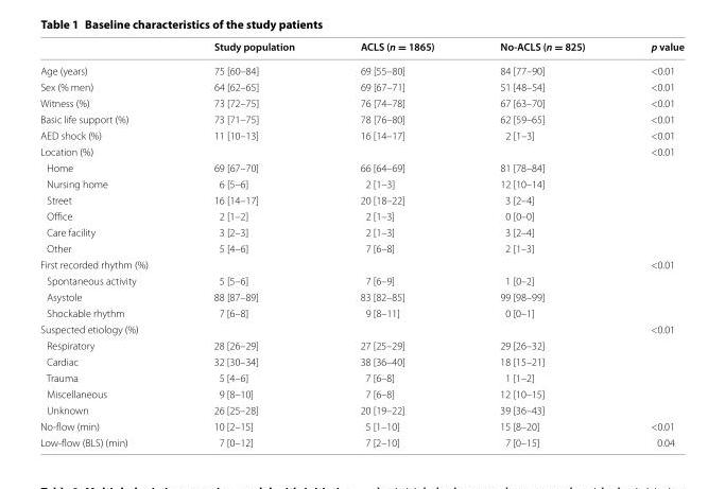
<table><thead><tr><td></td><td>Study population</td><td>ACLS (n = 1865)</td><td>No-ACLS (n = 825)</td><td>p value</td></tr></thead><tbody><tr><td>Age (years)</td><td>75 [60–84]</td><td>69 [55–80]</td><td>84 [77–90]</td><td>&lt;0.01</td></tr><tr><td>Sex (% men)</td><td>64 [62–65]</td><td>69 [67–71]</td><td>51 [48–54]</td><td>&lt;0.01</td></tr><tr><td>Witness (%)</td><td>73 [72–75]</td><td>76 [74–78]</td><td>67 [63–70]</td><td>&lt;0.01</td></tr><tr><td>Basic life support (%)</td><td>73 [71–75]</td><td>78 [76–80]</td><td>62 [59–65]</td><td>&lt;0.01</td></tr><tr><td>AED shock (%)</td><td>11 [10–13]</td><td>16 [14–17]</td><td>2 [1–3]</td><td>&lt;0.01</td></tr><tr><td>Location (%)</td><td></td><td></td><td></td><td>&lt;0.01</td></tr><tr><td>Home</td><td>69 [67–70]</td><td>66 [64–69]</td><td>81 [78–84]</td><td></td></tr><tr><td>Nursing home</td><td>6 [5–6]</td><td>2 [1–3]</td><td>12 [10–14]</td><td></td></tr><tr><td>Street</td><td>16 [14–17]</td><td>20 [18–22]</td><td>3 [2–4]</td><td></td></tr><tr><td>Office</td><td>2 [1–2]</td><td>2 [1–3]</td><td>0 [0–0]</td><td></td></tr><tr><td>Care facility</td><td>3 [2–3]</td><td>2 [1–3]</td><td>3 [2–4]</td><td></td></tr><tr><td>Other</td><td>5 [4–6]</td><td>7 [6–8]</td><td>2 [1–3]</td><td></td></tr><tr><td>First recorded rhythm (%)</td><td></td><td></td><td></td><td>&lt;0.01</td></tr><tr><td>Spontaneous activity</td><td>5 [5–6]</td><td>7 [6–9]</td><td>1 [0–2]</td><td></td></tr><tr><td>Asystole</td><td>88 [87–89]</td><td>83 [82–85]</td><td>99 [98–99]</td><td></td></tr><tr><td>Shockable rhythm</td><td>7 [6–8]</td><td>9 [8–11]</td><td>0 [0–1]</td><td></td></tr><tr><td>Suspected etiology (%)</td><td></td><td></td><td></td><td>&lt;0.01</td></tr><tr><td>Respiratory</td><td>28 [26–29]</td><td>27 [25–29]</td><td>29 [26–32]</td><td></td></tr><tr><td>Cardiac</td><td>32 [30–34]</td><td>38 [36–40]</td><td>18 [15–21]</td><td></td></tr><tr><td>Trauma</td><td>5 [4–6]</td><td>7 [6–8]</td><td>1 [1–2]</td><td></td></tr><tr><td>Miscellaneous</td><td>9 [8–10]</td><td>7 [6–8]</td><td>12 [10–15]</td><td></td></tr><tr><td>Unknown</td><td>26 [25–28]</td><td>20 [19–22]</td><td>39 [36–43]</td><td></td></tr><tr><td>No‑flow (min)</td><td>10 [2–15]</td><td>5 [1–10]</td><td>15 [8–20]</td><td>&lt;0.01</td></tr><tr><td>Low‑flow (BLS) (min)</td><td>7 [0–12]</td><td>7 [2–10]</td><td>7 [0–15]</td><td>0.04</td></tr></tbody></table>